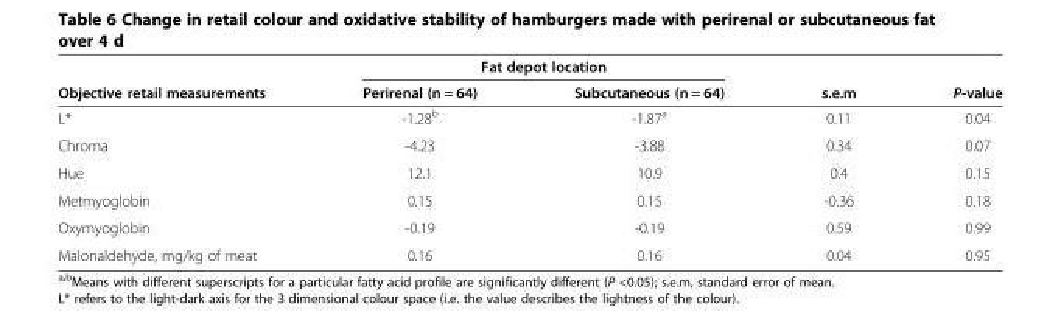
<table><thead><tr><td rowspan="2">Objective retail measurements</td><td colspan="2">Fat depot location</td><td rowspan="2">s.e.m</td><td rowspan="2">P-value</td></tr><tr><td>Perirenal (n = 64)</td><td>Subcutaneous (n = 64)</td></tr></thead><tbody><tr><td>L*</td><td>-1.28<sup>b</sup></td><td>-1.87<sup>a</sup></td><td>0.11</td><td>0.04</td></tr><tr><td>Chroma</td><td>-4.23</td><td>-3.88</td><td>0.34</td><td>0.07</td></tr><tr><td>Hue</td><td>12.1</td><td>10.9</td><td>0.4</td><td>0.15</td></tr><tr><td>Metmyoglobin</td><td>0.15</td><td>0.15</td><td>-0.36</td><td>0.18</td></tr><tr><td>Oxymyoglobin</td><td>-0.19</td><td>-0.19</td><td>0.59</td><td>0.99</td></tr><tr><td>Malonaldehyde, mg/kg of meat</td><td>0.16</td><td>0.16</td><td>0.04</td><td>0.95</td></tr></tbody></table>